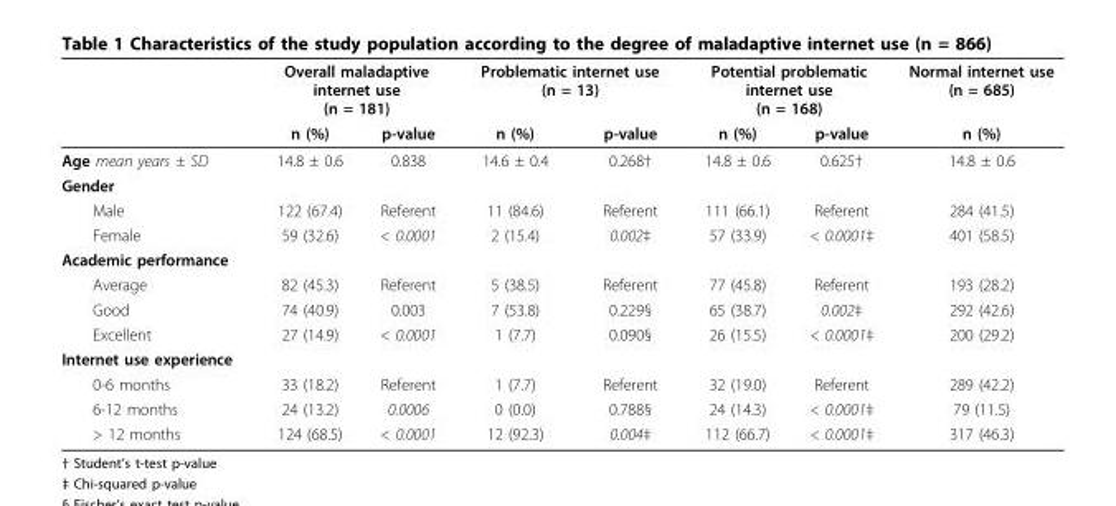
<table><thead><tr><td rowspan="2"></td><td colspan="2">Overall maladaptive internet use (n = 181)</td><td colspan="2">Problematic internet use (n = 13)</td><td colspan="2">Potential problematic internet use (n = 168)</td><td rowspan="2">Normal internet use (n = 685) n (%)</td></tr><tr><td>n (%)</td><td>p-value</td><td>n (%)</td><td>p-value</td><td>n (%)</td><td>p-value</td></tr></thead><tbody><tr><td>Age mean years ± SD</td><td>14.8 ± 0.6</td><td>0.838</td><td>14.6 ± 0.4</td><td>0.268†</td><td>14.8 ± 0.6</td><td>0.625†</td><td>14.8 ± 0.6</td></tr><tr><td colspan="8">Gender</td></tr><tr><td>Male</td><td>122 (67.4)</td><td>Referent</td><td>11 (84.6)</td><td>Referent</td><td>111 (66.1)</td><td>Referent</td><td>284 (41.5)</td></tr><tr><td>Female</td><td>59 (32.6)</td><td>&lt; 0.0001</td><td>2 (15.4)</td><td>0.002‡</td><td>57 (33.9)</td><td>&lt; 0.0001‡</td><td>401 (58.5)</td></tr><tr><td colspan="8">Academic performance</td></tr><tr><td>Average</td><td>82 (45.3)</td><td>Referent</td><td>5 (38.5)</td><td>Referent</td><td>77 (45.8)</td><td>Referent</td><td>193 (28.2)</td></tr><tr><td>Good</td><td>74 (40.9)</td><td>0.003</td><td>7 (53.8)</td><td>0.229§</td><td>65 (38.7)</td><td>0.002‡</td><td>292 (42.6)</td></tr><tr><td>Excellent</td><td>27 (14.9)</td><td>&lt; 0.0001</td><td>1 (7.7)</td><td>0.090§</td><td>26 (15.5)</td><td>&lt; 0.0001‡</td><td>200 (29.2)</td></tr><tr><td colspan="8">Internet use experience</td></tr><tr><td>0-6 months</td><td>33 (18.2)</td><td>Referent</td><td>1 (7.7)</td><td>Referent</td><td>32 (19.0)</td><td>Referent</td><td>289 (42.2)</td></tr><tr><td>6-12 months</td><td>24 (13.2)</td><td>0.0006</td><td>0 (0.0)</td><td>0.788§</td><td>24 (14.3)</td><td>&lt; 0.0001‡</td><td>79 (11.5)</td></tr><tr><td>&gt; 12 months</td><td>124 (68.5)</td><td>&lt; 0.0001</td><td>12 (92.3)</td><td>0.004‡</td><td>112 (66.7)</td><td>&lt; 0.0001‡</td><td>317 (46.3)</td></tr></tbody></table>